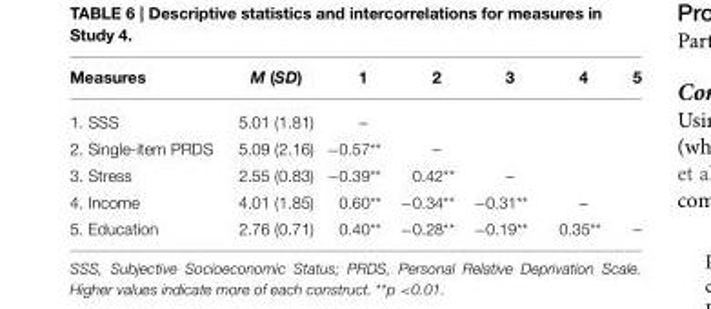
<table><thead><tr><td>Measures</td><td>M (SD)</td><td>1</td><td>2</td><td>3</td><td>4</td><td>5</td></tr></thead><tbody><tr><td>1. SSS</td><td>5.01 (1.81)</td><td>–</td><td></td><td></td><td></td><td></td></tr><tr><td>2. Single-item PRDS</td><td>5.09 (2.16)</td><td>−0.57**</td><td>–</td><td></td><td></td><td></td></tr><tr><td>3. Stress</td><td>2.55 (0.83)</td><td>−0.39**</td><td>0.42**</td><td>–</td><td></td><td></td></tr><tr><td>4. Income</td><td>4.01 (1.85)</td><td>0.60**</td><td>−0.34**</td><td>−0.31**</td><td>–</td><td></td></tr><tr><td>5. Education</td><td>2.76 (0.71)</td><td>0.40**</td><td>−0.28**</td><td>−0.19**</td><td>0.35**</td><td>–</td></tr></tbody></table>